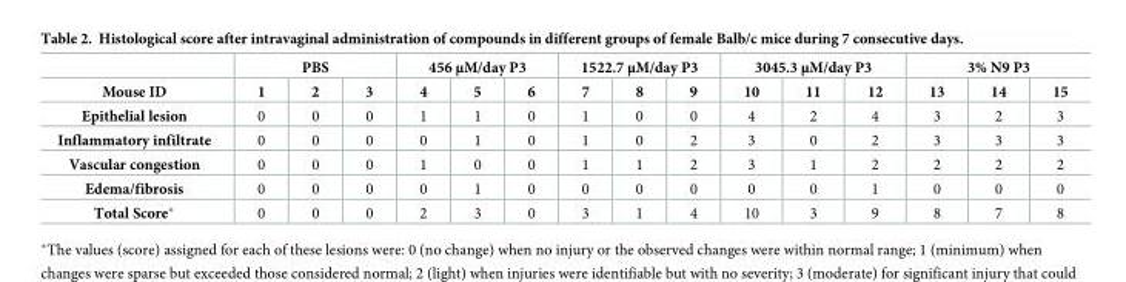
<table><thead><tr><td rowspan="2">Mouse ID</td><td colspan="3">PBS</td><td colspan="3">456 μM/day P3</td><td colspan="3">1522.7 μM/day P3</td><td colspan="3">3045.3 μM/day P3</td><td colspan="3">3% N9 P3</td></tr><tr><td>1</td><td>2</td><td>3</td><td>4</td><td>5</td><td>6</td><td>7</td><td>8</td><td>9</td><td>10</td><td>11</td><td>12</td><td>13</td><td>14</td><td>15</td></tr></thead><tbody><tr><td>Epithelial lesion</td><td>0</td><td>0</td><td>0</td><td>1</td><td>1</td><td>0</td><td>1</td><td>0</td><td>0</td><td>4</td><td>2</td><td>4</td><td>3</td><td>2</td><td>3</td></tr><tr><td>Inflammatory infiltrate</td><td>0</td><td>0</td><td>0</td><td>0</td><td>1</td><td>0</td><td>1</td><td>0</td><td>2</td><td>3</td><td>0</td><td>2</td><td>3</td><td>3</td><td>3</td></tr><tr><td>Vascular congestion</td><td>0</td><td>0</td><td>0</td><td>1</td><td>0</td><td>0</td><td>1</td><td>1</td><td>2</td><td>3</td><td>1</td><td>2</td><td>2</td><td>2</td><td>2</td></tr><tr><td>Edema/fibrosis</td><td>0</td><td>0</td><td>0</td><td>0</td><td>1</td><td>0</td><td>0</td><td>0</td><td>0</td><td>0</td><td>0</td><td>1</td><td>0</td><td>0</td><td>0</td></tr><tr><td>Total Score*</td><td>0</td><td>0</td><td>0</td><td>2</td><td>3</td><td>0</td><td>3</td><td>1</td><td>4</td><td>10</td><td>3</td><td>9</td><td>8</td><td>7</td><td>8</td></tr></tbody></table>